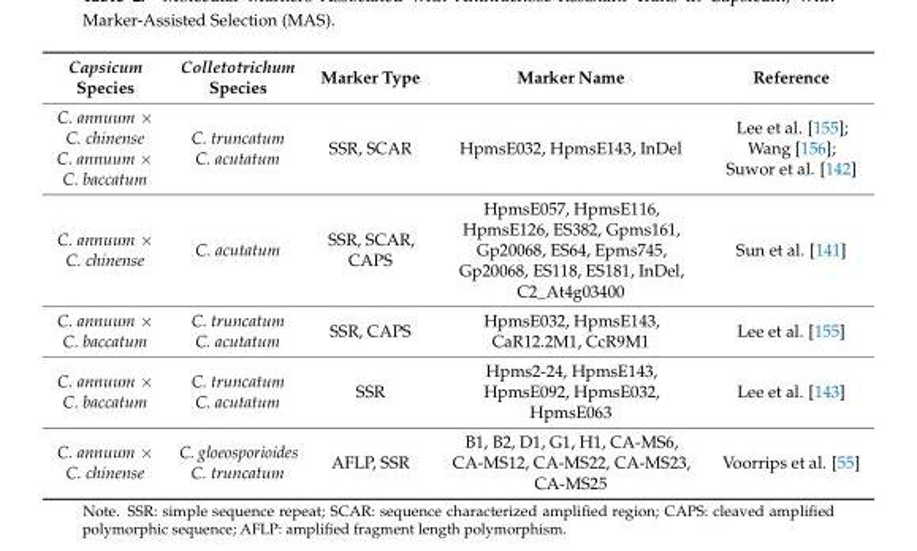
<table><thead><tr><td>Capsicum Species</td><td>Colletotrichum Species</td><td>Marker Type</td><td>Marker Name</td><td>Reference</td></tr></thead><tbody><tr><td>C. annuum × C. chinense C. annuum × C. baccatum</td><td>C. truncatum C. acutatum</td><td>SSR, SCAR</td><td>HpmsE032, HpmsE143, InDel</td><td>Lee et al. [155]; Wang [156]; Suwor et al. [142]</td></tr><tr><td>C. annuum × C. chinense</td><td>C. acutatum</td><td>SSR, SCAR, CAPS</td><td>HpmsE057, HpmsE116, HpmsE126, ES382, Gpms161, Gp20068, ES64, Epms745, Gp20068, ES118, ES181, InDel, C2_At4g03400</td><td>Sun et al. [141]</td></tr><tr><td>C. annuum × C. baccatum</td><td>C. truncatum C. acutatum</td><td>SSR, CAPS</td><td>HpmsE032, HpmsE143, CaR12.2M1, CcR9M1</td><td>Lee et al. [155]</td></tr><tr><td>C. annuum × C. baccatum</td><td>C. truncatum C. acutatum</td><td>SSR</td><td>Hpms2-24, HpmsE143, HpmsE092, HpmsE032, HpmsE063</td><td>Lee et al. [143]</td></tr><tr><td>C. annuum × C. chinense</td><td>C. gloeosporioides C. truncatum</td><td>AFLP, SSR</td><td>B1, B2, D1, G1, H1, CA-MS6, CA-MS12, CA-MS22, CA-MS23, CA-MS25</td><td>Voorrips et al. [55]</td></tr></tbody></table>